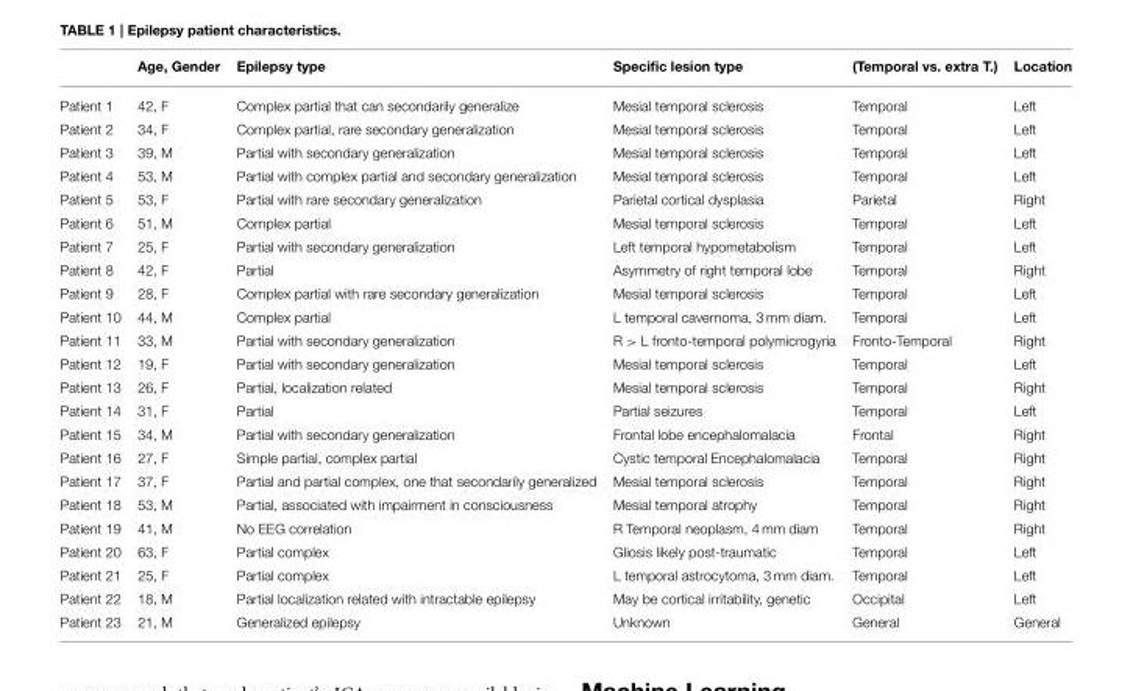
<table><thead><tr><td></td><td>Age, Gender</td><td>Epilepsy type</td><td>Specific lesion type</td><td>(Temporal vs. extra T.)</td><td>Location</td></tr></thead><tbody><tr><td>Patient 1</td><td>42, F</td><td>Complex partial that can secondarily generalize</td><td>Mesial temporal sclerosis</td><td>Temporal</td><td>Left</td></tr><tr><td>Patient 2</td><td>34, F</td><td>Complex partial, rare secondary generalization</td><td>Mesial temporal sclerosis</td><td>Temporal</td><td>Left</td></tr><tr><td>Patient 3</td><td>39, M</td><td>Partial with secondary generalization</td><td>Mesial temporal sclerosis</td><td>Temporal</td><td>Left</td></tr><tr><td>Patient 4</td><td>53, M</td><td>Partial with complex partial and secondary generalization</td><td>Mesial temporal sclerosis</td><td>Temporal</td><td>Left</td></tr><tr><td>Patient 5</td><td>53, F</td><td>Partial with rare secondary generalization</td><td>Parietal cortical dysplasia</td><td>Parietal</td><td>Right</td></tr><tr><td>Patient 6</td><td>51, M</td><td>Complex partial</td><td>Mesial temporal sclerosis</td><td>Temporal</td><td>Left</td></tr><tr><td>Patient 7</td><td>25, F</td><td>Partial with secondary generalization</td><td>Left temporal hypometabolism</td><td>Temporal</td><td>Left</td></tr><tr><td>Patient 8</td><td>42, F</td><td>Partial</td><td>Asymmetry of right temporal lobe</td><td>Temporal</td><td>Right</td></tr><tr><td>Patient 9</td><td>28, F</td><td>Complex partial with rare secondary generalization</td><td>Mesial temporal sclerosis</td><td>Temporal</td><td>Left</td></tr><tr><td>Patient 10</td><td>44, M</td><td>Complex partial</td><td>L temporal cavernoma, 3 mm diam.</td><td>Temporal</td><td>Left</td></tr><tr><td>Patient 11</td><td>33, M</td><td>Partial with secondary generalization</td><td>R &gt; L fronto-temporal polymicrogyria</td><td>Fronto-Temporal</td><td>Right</td></tr><tr><td>Patient 12</td><td>19, F</td><td>Partial with secondary generalization</td><td>Mesial temporal sclerosis</td><td>Temporal</td><td>Left</td></tr><tr><td>Patient 13</td><td>26, F</td><td>Partial, localization related</td><td>Mesial temporal sclerosis</td><td>Temporal</td><td>Right</td></tr><tr><td>Patient 14</td><td>31, F</td><td>Partial</td><td>Partial seizures</td><td>Temporal</td><td>Left</td></tr><tr><td>Patient 15</td><td>34, M</td><td>Partial with secondary generalization</td><td>Frontal lobe encephalomalacia</td><td>Frontal</td><td>Right</td></tr><tr><td>Patient 16</td><td>27, F</td><td>Simple partial, complex partial</td><td>Cystic temporal Encephalomalacia</td><td>Temporal</td><td>Right</td></tr><tr><td>Patient 17</td><td>37, F</td><td>Partial and partial complex, one that secondarily generalized</td><td>Mesial temporal sclerosis</td><td>Temporal</td><td>Right</td></tr><tr><td>Patient 18</td><td>53, M</td><td>Partial, associated with impairment in consciousness</td><td>Mesial temporal atrophy</td><td>Temporal</td><td>Right</td></tr><tr><td>Patient 19</td><td>41, M</td><td>No EEG correlation</td><td>R Temporal neoplasm, 4 mm diam</td><td>Temporal</td><td>Right</td></tr><tr><td>Patient 20</td><td>63, F</td><td>Partial complex</td><td>Gliosis likely post-traumatic</td><td>Temporal</td><td>Left</td></tr><tr><td>Patient 21</td><td>25, F</td><td>Partial complex</td><td>L temporal astrocytoma, 3 mm diam.</td><td>Temporal</td><td>Left</td></tr><tr><td>Patient 22</td><td>18, M</td><td>Partial localization related with intractable epilepsy</td><td>May be cortical irritability, genetic</td><td>Occipital</td><td>Left</td></tr><tr><td>Patient 23</td><td>21, M</td><td>Generalized epilepsy</td><td>Unknown</td><td>General</td><td>General</td></tr></tbody></table>